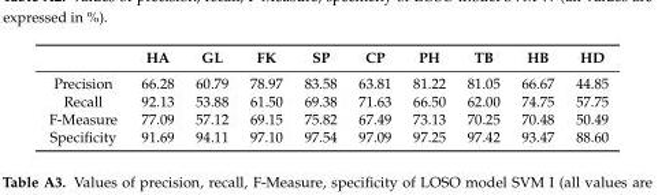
<table><thead><tr><td></td><td>HA</td><td>GL</td><td>FK</td><td>SP</td><td>CP</td><td>PH</td><td>TB</td><td>HB</td><td>HD</td></tr></thead><tbody><tr><td>Precision</td><td>66.28</td><td>60.79</td><td>78.97</td><td>83.58</td><td>63.81</td><td>81.22</td><td>81.05</td><td>66.67</td><td>44.85</td></tr><tr><td>Recall</td><td>92.13</td><td>53.88</td><td>61.50</td><td>69.38</td><td>71.63</td><td>66.50</td><td>62.00</td><td>74.75</td><td>57.75</td></tr><tr><td>F-Measure</td><td>77.09</td><td>57.12</td><td>69.15</td><td>75.82</td><td>67.49</td><td>73.13</td><td>70.25</td><td>70.48</td><td>50.49</td></tr><tr><td>Specificity</td><td>91.69</td><td>94.11</td><td>97.10</td><td>97.54</td><td>97.09</td><td>97.25</td><td>97.42</td><td>93.47</td><td>88.60</td></tr></tbody></table>